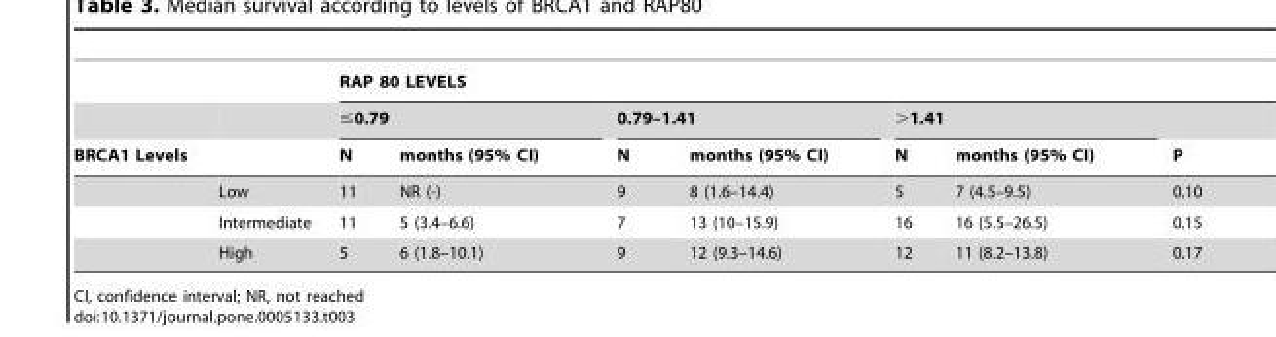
<table><thead><tr><td rowspan="3">BRCA1 Levels</td><td rowspan="3"></td><td colspan="7">RAP 80 LEVELS</td></tr><tr><td colspan="2">≤0.79</td><td colspan="2">0.79–1.41</td><td colspan="2">&gt;1.41</td><td rowspan="2">P</td></tr><tr><td>N</td><td>months (95% CI)</td><td>N</td><td>months (95% CI)</td><td>N</td><td>months (95% CI)</td></tr></thead><tbody><tr><td></td><td>Low</td><td>11</td><td>NR (-)</td><td>9</td><td>8 (1.6–14.4)</td><td>5</td><td>7 (4.5–9.5)</td><td>0.10</td></tr><tr><td></td><td>Intermediate</td><td>11</td><td>5 (3.4–6.6)</td><td>7</td><td>13 (10–15.9)</td><td>16</td><td>16 (5.5–26.5)</td><td>0.15</td></tr><tr><td></td><td>High</td><td>5</td><td>6 (1.8–10.1)</td><td>9</td><td>12 (9.3–14.6)</td><td>12</td><td>11 (8.2–13.8)</td><td>0.17</td></tr></tbody></table>